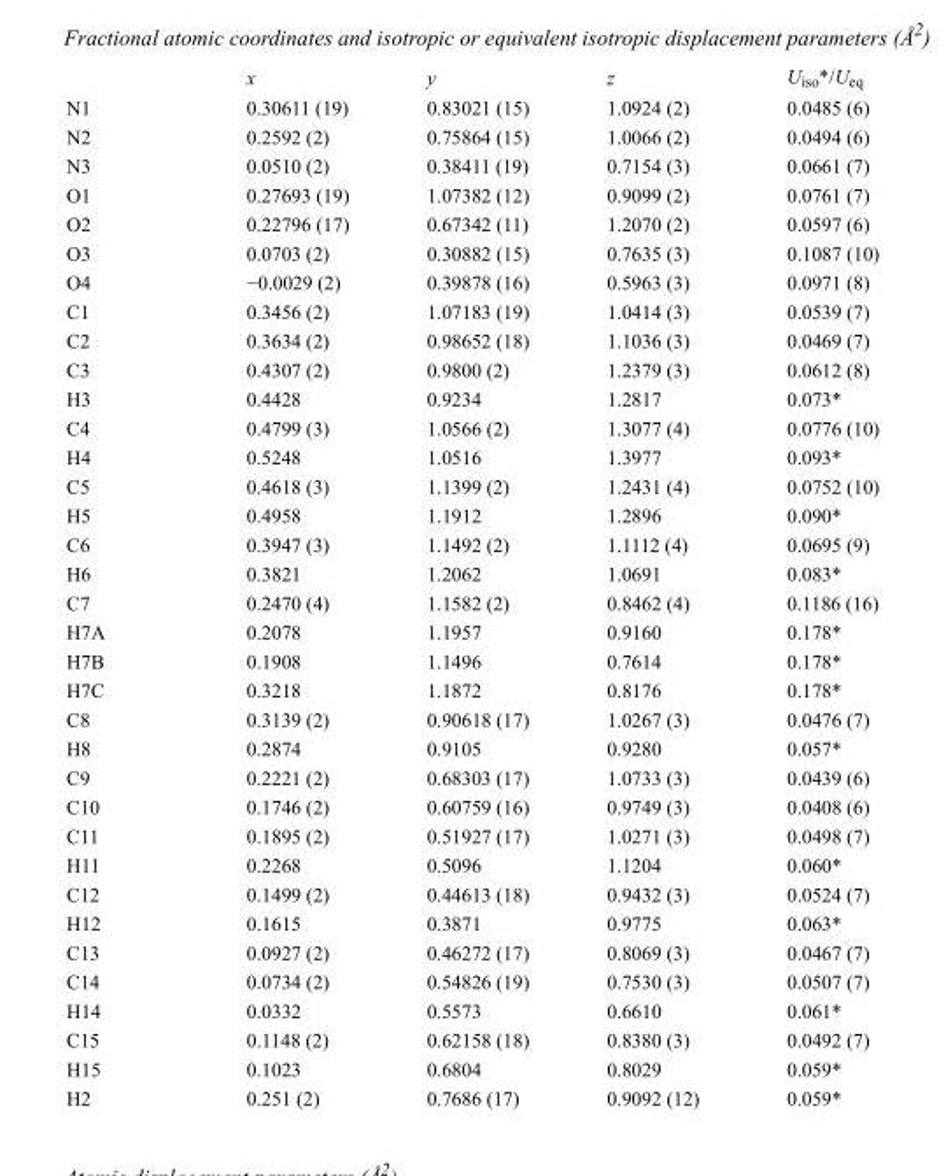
<table><thead><tr><td></td><td>x</td><td>y</td><td>z</td><td>U<sub>iso</sub>*/U<sub>eq</sub></td></tr></thead><tbody><tr><td>N1</td><td>0.30611 (19)</td><td>0.83021 (15)</td><td>1.0924 (2)</td><td>0.0485 (6)</td></tr><tr><td>N2</td><td>0.2592 (2)</td><td>0.75864 (15)</td><td>1.0066 (2)</td><td>0.0494 (6)</td></tr><tr><td>N3</td><td>0.0510 (2)</td><td>0.38411 (19)</td><td>0.7154 (3)</td><td>0.0661 (7)</td></tr><tr><td>O1</td><td>0.27693 (19)</td><td>1.07382 (12)</td><td>0.9099 (2)</td><td>0.0761 (7)</td></tr><tr><td>O2</td><td>0.22796 (17)</td><td>0.67342 (11)</td><td>1.2070 (2)</td><td>0.0597 (6)</td></tr><tr><td>O3</td><td>0.0703 (2)</td><td>0.30882 (15)</td><td>0.7635 (3)</td><td>0.1087 (10)</td></tr><tr><td>O4</td><td>−0.0029 (2)</td><td>0.39878 (16)</td><td>0.5963 (3)</td><td>0.0971 (8)</td></tr><tr><td>C1</td><td>0.3456 (2)</td><td>1.07183 (19)</td><td>1.0414 (3)</td><td>0.0539 (7)</td></tr><tr><td>C2</td><td>0.3634 (2)</td><td>0.98652 (18)</td><td>1.1036 (3)</td><td>0.0469 (7)</td></tr><tr><td>C3</td><td>0.4307 (2)</td><td>0.9800 (2)</td><td>1.2379 (3)</td><td>0.0612 (8)</td></tr><tr><td>H3</td><td>0.4428</td><td>0.9234</td><td>1.2817</td><td>0.073*</td></tr><tr><td>C4</td><td>0.4799 (3)</td><td>1.0566 (2)</td><td>1.3077 (4)</td><td>0.0776 (10)</td></tr><tr><td>H4</td><td>0.5248</td><td>1.0516</td><td>1.3977</td><td>0.093*</td></tr><tr><td>C5</td><td>0.4618 (3)</td><td>1.1399 (2)</td><td>1.2431 (4)</td><td>0.0752 (10)</td></tr><tr><td>H5</td><td>0.4958</td><td>1.1912</td><td>1.2896</td><td>0.090*</td></tr><tr><td>C6</td><td>0.3947 (3)</td><td>1.1492 (2)</td><td>1.1112 (4)</td><td>0.0695 (9)</td></tr><tr><td>H6</td><td>0.3821</td><td>1.2062</td><td>1.0691</td><td>0.083*</td></tr><tr><td>C7</td><td>0.2470 (4)</td><td>1.1582 (2)</td><td>0.8462 (4)</td><td>0.1186 (16)</td></tr><tr><td>H7A</td><td>0.2078</td><td>1.1957</td><td>0.9160</td><td>0.178*</td></tr><tr><td>H7B</td><td>0.1908</td><td>1.1496</td><td>0.7614</td><td>0.178*</td></tr><tr><td>H7C</td><td>0.3218</td><td>1.1872</td><td>0.8176</td><td>0.178*</td></tr><tr><td>C8</td><td>0.3139 (2)</td><td>0.90618 (17)</td><td>1.0267 (3)</td><td>0.0476 (7)</td></tr><tr><td>H8</td><td>0.2874</td><td>0.9105</td><td>0.9280</td><td>0.057*</td></tr><tr><td>C9</td><td>0.2221 (2)</td><td>0.68303 (17)</td><td>1.0733 (3)</td><td>0.0439 (6)</td></tr><tr><td>C10</td><td>0.1746 (2)</td><td>0.60759 (16)</td><td>0.9749 (3)</td><td>0.0408 (6)</td></tr><tr><td>C11</td><td>0.1895 (2)</td><td>0.51927 (17)</td><td>1.0271 (3)</td><td>0.0498 (7)</td></tr><tr><td>H11</td><td>0.2268</td><td>0.5096</td><td>1.1204</td><td>0.060*</td></tr><tr><td>C12</td><td>0.1499 (2)</td><td>0.44613 (18)</td><td>0.9432 (3)</td><td>0.0524 (7)</td></tr><tr><td>H12</td><td>0.1615</td><td>0.3871</td><td>0.9775</td><td>0.063*</td></tr><tr><td>C13</td><td>0.0927 (2)</td><td>0.46272 (17)</td><td>0.8069 (3)</td><td>0.0467 (7)</td></tr><tr><td>C14</td><td>0.0734 (2)</td><td>0.54826 (19)</td><td>0.7530 (3)</td><td>0.0507 (7)</td></tr><tr><td>H14</td><td>0.0332</td><td>0.5573</td><td>0.6610</td><td>0.061*</td></tr><tr><td>C15</td><td>0.1148 (2)</td><td>0.62158 (18)</td><td>0.8380 (3)</td><td>0.0492 (7)</td></tr><tr><td>H15</td><td>0.1023</td><td>0.6804</td><td>0.8029</td><td>0.059*</td></tr><tr><td>H2</td><td>0.251 (2)</td><td>0.7686 (17)</td><td>0.9092 (12)</td><td>0.059*</td></tr></tbody></table>